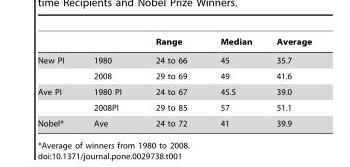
<table><thead><tr><td></td><td></td><td>Range</td><td>Median</td><td>Average</td></tr></thead><tbody><tr><td rowspan="2">New PI</td><td>1980</td><td>24 to 66</td><td>45</td><td>35.7</td></tr><tr><td>2008</td><td>29 to 69</td><td>49</td><td>41.6</td></tr><tr><td rowspan="2">Ave PI</td><td>1980 PI</td><td>24 to 67</td><td>45.5</td><td>39.0</td></tr><tr><td>2008PI</td><td>29 to 85</td><td>57</td><td>51.1</td></tr><tr><td>Nobel*</td><td>Ave</td><td>24 to 72</td><td>41</td><td>39.9</td></tr></tbody></table>